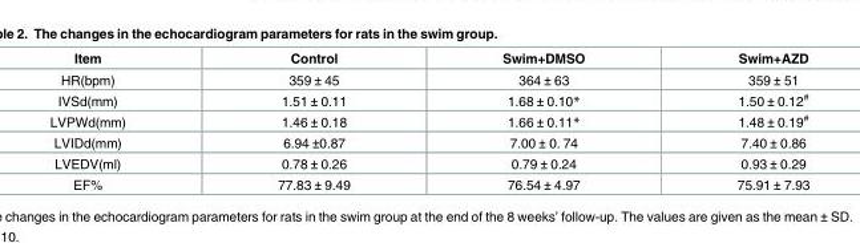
<table><thead><tr><td>Item</td><td>Control</td><td>Swim+DMSO</td><td>Swim+AZD</td></tr></thead><tbody><tr><td>HR(bpm)</td><td>359 ± 45</td><td>364 ± 63</td><td>359 ± 51</td></tr><tr><td>IVSd(mm)</td><td>1.51 ± 0.11</td><td>1.68 ± 0.10*</td><td>1.50 ± 0.12<sup>#</sup></td></tr><tr><td>LVPWd(mm)</td><td>1.46 ± 0.18</td><td>1.66 ± 0.11*</td><td>1.48 ± 0.19<sup>#</sup></td></tr><tr><td>LVIDd(mm)</td><td>6.94 ±0.87</td><td>7.00 ± 0. 74</td><td>7.40 ± 0.86</td></tr><tr><td>LVEDV(ml)</td><td>0.78 ± 0.26</td><td>0.79 ± 0.24</td><td>0.93 ± 0.29</td></tr><tr><td>EF%</td><td>77.83 ± 9.49</td><td>76.54 ± 4.97</td><td>75.91 ± 7.93</td></tr></tbody></table>